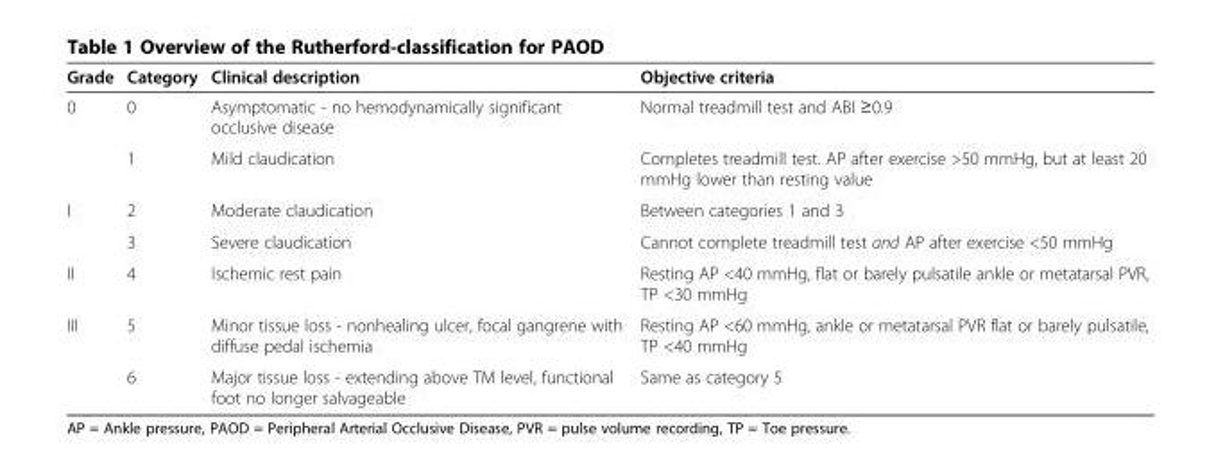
<table><thead><tr><td>Grade</td><td>Category</td><td>Clinical description</td><td>Objective criteria</td></tr></thead><tbody><tr><td rowspan="2">0</td><td>0</td><td>Asymptomatic - no hemodynamically significant occlusive disease</td><td>Normal treadmill test and ABI ≥0.9</td></tr><tr><td>1</td><td>Mild claudication</td><td>Completes treadmill test. AP after exercise &gt;50 mmHg, but at least 20 mmHg lower than resting value</td></tr><tr><td rowspan="2">I</td><td>2</td><td>Moderate claudication</td><td>Between categories 1 and 3</td></tr><tr><td>3</td><td>Severe claudication</td><td>Cannot complete treadmill test and AP after exercise &lt;50 mmHg</td></tr><tr><td>II</td><td>4</td><td>Ischemic rest pain</td><td>Resting AP &lt;40 mmHg, flat or barely pulsatile ankle or metatarsal PVR, TP &lt;30 mmHg</td></tr><tr><td rowspan="2">III</td><td>5</td><td>Minor tissue loss - nonhealing ulcer, focal gangrene with diffuse pedal ischemia</td><td>Resting AP &lt;60 mmHg, ankle or metatarsal PVR flat or barely pulsatile, TP &lt;40 mmHg</td></tr><tr><td>6</td><td>Major tissue loss - extending above TM level, functional foot no longer salvageable</td><td>Same as category 5</td></tr></tbody></table>